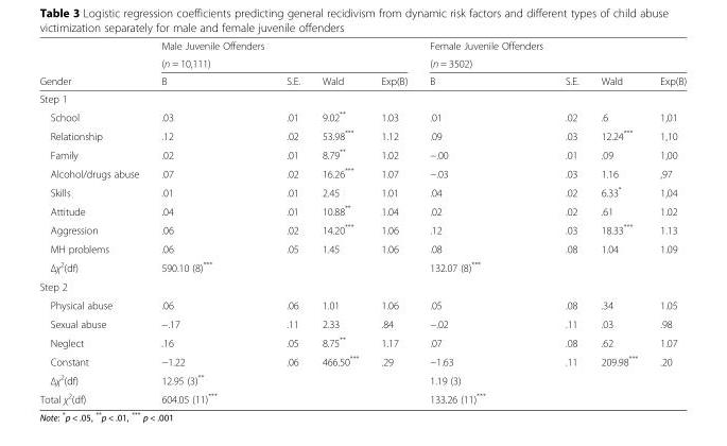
<table><thead><tr><td rowspan="3">Gender</td><td>Male Juvenile Offenders</td><td></td><td></td><td></td><td>Female Juvenile Offenders</td><td></td><td></td><td></td></tr><tr><td colspan="4">(n = 10,111)</td><td colspan="4">(n = 3502)</td></tr><tr><td>B</td><td>S.E.</td><td>Wald</td><td>Exp(B)</td><td>B</td><td>S.E.</td><td>Wald</td><td>Exp(B)</td></tr></thead><tbody><tr><td colspan="9">Step 1</td></tr><tr><td>School</td><td>.03</td><td>.01</td><td>9.02**</td><td>1.03</td><td>.01</td><td>.02</td><td>.6</td><td>1,01</td></tr><tr><td>Relationship</td><td>.12</td><td>.02</td><td>53.98***</td><td>1.12</td><td>.09</td><td>.03</td><td>12.24***</td><td>1,10</td></tr><tr><td>Family</td><td>.02</td><td>.01</td><td>8.79**</td><td>1.02</td><td>−.00</td><td>.01</td><td>.09</td><td>1,00</td></tr><tr><td>Alcohol/drugs abuse</td><td>.07</td><td>.02</td><td>16.26***</td><td>1.07</td><td>−.03</td><td>.03</td><td>1.16</td><td>,97</td></tr><tr><td>Skills</td><td>.01</td><td>.01</td><td>2.45</td><td>1.01</td><td>.04</td><td>.02</td><td>6.33*</td><td>1,04</td></tr><tr><td>Attitude</td><td>.04</td><td>.01</td><td>10.88**</td><td>1.04</td><td>.02</td><td>.02</td><td>.61</td><td>1.02</td></tr><tr><td>Aggression</td><td>.06</td><td>.02</td><td>14.20***</td><td>1.06</td><td>.12</td><td>.03</td><td>18.33***</td><td>1.13</td></tr><tr><td>MH problems</td><td>.06</td><td>.05</td><td>1.45</td><td>1.06</td><td>.08</td><td>.08</td><td>1.04</td><td>1.09</td></tr><tr><td>Δχ2(df)</td><td colspan="4">590.10 (8)***</td><td colspan="4">132.07 (8)***</td></tr><tr><td colspan="9">Step 2</td></tr><tr><td>Physical abuse</td><td>.06</td><td>.06</td><td>1.01</td><td>1.06</td><td>.05</td><td>.08</td><td>.34</td><td>1.05</td></tr><tr><td>Sexual abuse</td><td>−.17</td><td>.11</td><td>2.33</td><td>.84</td><td>−.02</td><td>.11</td><td>.03</td><td>.98</td></tr><tr><td>Neglect</td><td>.16</td><td>.05</td><td>8.75**</td><td>1.17</td><td>.07</td><td>.08</td><td>.62</td><td>1.07</td></tr><tr><td>Constant</td><td>−1.22</td><td>.06</td><td>466.50***</td><td>.29</td><td>−1.63</td><td>.11</td><td>209.98***</td><td>.20</td></tr><tr><td>Δχ2(df)</td><td colspan="4">12.95 (3)**</td><td colspan="4">1.19 (3)</td></tr><tr><td>Total χ<sup>2</sup>(df)</td><td colspan="4">604.05 (11)***</td><td colspan="4">133.26 (11)***</td></tr></tbody></table>